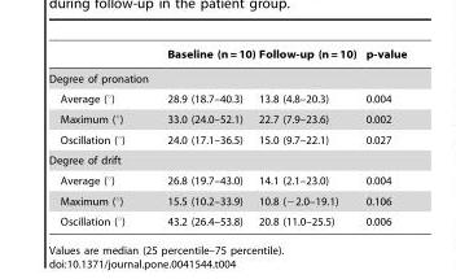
<table><thead><tr><td></td><td>Baseline (n = 10)</td><td>Follow-up (n = 10)</td><td>p-value</td></tr></thead><tbody><tr><td colspan="4">Degree of pronation</td></tr><tr><td>Average (°)</td><td>28.9 (18.7–40.3)</td><td>13.8 (4.8–20.3)</td><td>0.004</td></tr><tr><td>Maximum (°)</td><td>33.0 (24.0–52.1)</td><td>22.7 (7.9–23.6)</td><td>0.002</td></tr><tr><td>Oscillation (°)</td><td>24.0 (17.1–36.5)</td><td>15.0 (9.7–22.1)</td><td>0.027</td></tr><tr><td colspan="4">Degree of drift</td></tr><tr><td>Average (°)</td><td>26.8 (19.7–43.0)</td><td>14.1 (2.1–23.0)</td><td>0.004</td></tr><tr><td>Maximum (°)</td><td>15.5 (10.2–33.9)</td><td>10.8 (−2.0–19.1)</td><td>0.106</td></tr><tr><td>Oscillation (°)</td><td>43.2 (26.4–53.8)</td><td>20.8 (11.0–25.5)</td><td>0.006</td></tr></tbody></table>